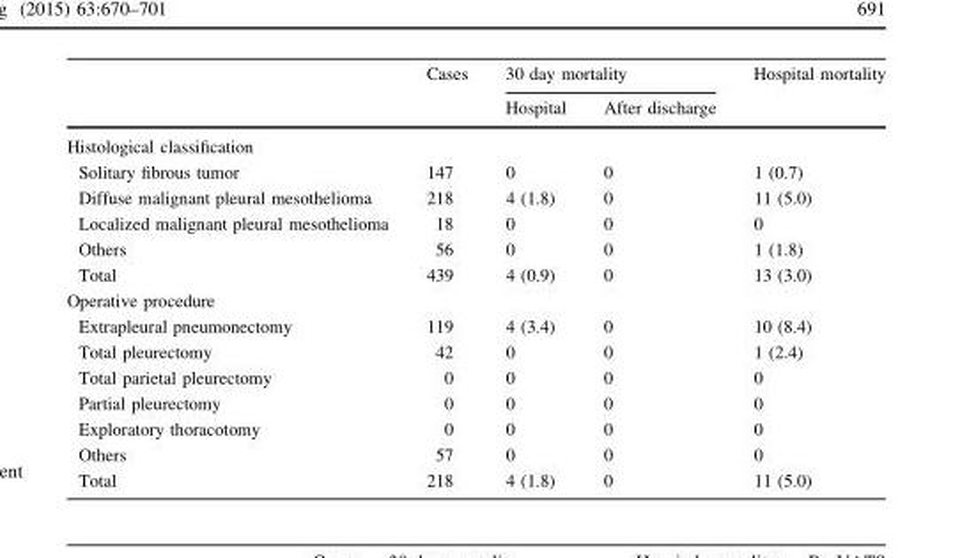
<table><thead><tr><td rowspan="2"></td><td rowspan="2">Cases</td><td colspan="2">30 day mortality</td><td rowspan="2">Hospital mortality</td></tr><tr><td>Hospital</td><td>After discharge</td></tr></thead><tbody><tr><td colspan="5">Histological classification</td></tr><tr><td>Solitary fibrous tumor</td><td>147</td><td>0</td><td>0</td><td>1 (0.7)</td></tr><tr><td>Diffuse malignant pleural mesothelioma</td><td>218</td><td>4 (1.8)</td><td>0</td><td>11 (5.0)</td></tr><tr><td>Localized malignant pleural mesothelioma</td><td>18</td><td>0</td><td>0</td><td>0</td></tr><tr><td>Others</td><td>56</td><td>0</td><td>0</td><td>1 (1.8)</td></tr><tr><td>Total</td><td>439</td><td>4 (0.9)</td><td>0</td><td>13 (3.0)</td></tr><tr><td colspan="5">Operative procedure</td></tr><tr><td>Extrapleural pneumonectomy</td><td>119</td><td>4 (3.4)</td><td>0</td><td>10 (8.4)</td></tr><tr><td>Total pleurectomy</td><td>42</td><td>0</td><td>0</td><td>1 (2.4)</td></tr><tr><td>Total parietal pleurectomy</td><td>0</td><td>0</td><td>0</td><td>0</td></tr><tr><td>Partial pleurectomy</td><td>0</td><td>0</td><td>0</td><td>0</td></tr><tr><td>Exploratory thoracotomy</td><td>0</td><td>0</td><td>0</td><td>0</td></tr><tr><td>Others</td><td>57</td><td>0</td><td>0</td><td>0</td></tr><tr><td>Total</td><td>218</td><td>4 (1.8)</td><td>0</td><td>11 (5.0)</td></tr></tbody></table>